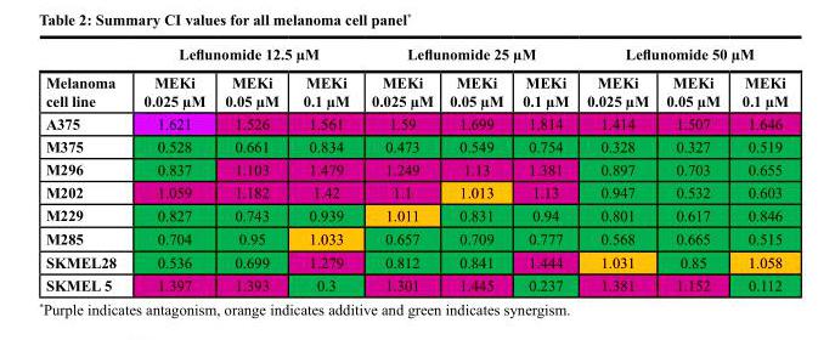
<table><thead><tr><td rowspan="2">Melanoma cell line</td><td colspan="3">Leflunomide 12.5 µM</td><td colspan="3">Leflunomide 25 µM</td><td colspan="3">Leflunomide 50 µM</td></tr><tr><td>MEKi 0.025 µM</td><td>MEKi 0.05 µM</td><td>MEKi 0.1 µM</td><td>MEKi 0.025 µM</td><td>MEKi 0.05 µM</td><td>MEKi 0.1 µM</td><td>MEKi 0.025 µM</td><td>MEKi 0.05 µM</td><td>MEKi 0.1 µM</td></tr></thead><tbody><tr><td>A375</td><td>1.621</td><td>1.526</td><td>1.561</td><td>1.59</td><td>1.699</td><td>1.814</td><td>1.414</td><td>1.507</td><td>1.646</td></tr><tr><td>M375</td><td>0.528</td><td>0.661</td><td>0.834</td><td>0.473</td><td>0.549</td><td>0.754</td><td>0.328</td><td>0.327</td><td>0.519</td></tr><tr><td>M296</td><td>0.837</td><td>1.103</td><td>1.479</td><td>1.249</td><td>1.13</td><td>1.381</td><td>0.897</td><td>0.703</td><td>0.655</td></tr><tr><td>M202</td><td>1.059</td><td>1.182</td><td>1.42</td><td>1.1</td><td>1.013</td><td>1.13</td><td>0.947</td><td>0.532</td><td>0.603</td></tr><tr><td>M229</td><td>0.827</td><td>0.743</td><td>0.939</td><td>1.011</td><td>0.831</td><td>0.94</td><td>0.801</td><td>0.617</td><td>0.846</td></tr><tr><td>M285</td><td>0.704</td><td>0.95</td><td>1.033</td><td>0.657</td><td>0.709</td><td>0.777</td><td>0.568</td><td>0.665</td><td>0.515</td></tr><tr><td>SKMEL28</td><td>0.536</td><td>0.699</td><td>1.279</td><td>0.812</td><td>0.841</td><td>1.444</td><td>1.031</td><td>0.85</td><td>1.058</td></tr><tr><td>SKMEL 5</td><td>1.397</td><td>1.393</td><td>0.3</td><td>1.301</td><td>1.445</td><td>0.237</td><td>1.381</td><td>1.152</td><td>0.112</td></tr></tbody></table>